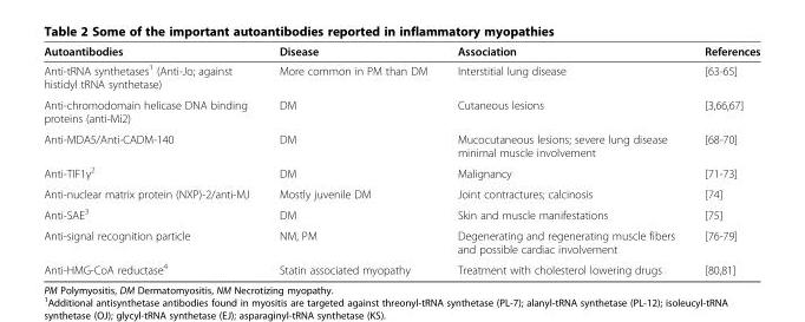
<table><thead><tr><td>Autoantibodies</td><td>Disease</td><td>Association</td><td>References</td></tr></thead><tbody><tr><td>Anti-tRNA synthetases<sup>1</sup> (Anti-Jo; against histidyl tRNA synthetase)</td><td>More common in PM than DM</td><td>Interstitial lung disease</td><td>[63-65]</td></tr><tr><td>Anti-chromodomain helicase DNA binding proteins (anti-Mi2)</td><td>DM</td><td>Cutaneous lesions</td><td>[3,66,67]</td></tr><tr><td>Anti-MDA5/Anti-CADM-140</td><td>DM</td><td>Mucocutaneous lesions; severe lung disease minimal muscle involvement</td><td>[68-70]</td></tr><tr><td>Anti-TIF1γ<sup>2</sup></td><td>DM</td><td>Malignancy</td><td>[71-73]</td></tr><tr><td>Anti-nuclear matrix protein (NXP)-2/anti-MJ</td><td>Mostly juvenile DM</td><td>Joint contractures; calcinosis</td><td>[74]</td></tr><tr><td>Anti-SAE<sup>3</sup></td><td>DM</td><td>Skin and muscle manifestations</td><td>[75]</td></tr><tr><td>Anti-signal recognition particle</td><td>NM, PM</td><td>Degenerating and regenerating muscle fibers and possible cardiac involvement</td><td>[76-79]</td></tr><tr><td>Anti-HMG-CoA reductase<sup>4</sup></td><td>Statin associated myopathy</td><td>Treatment with cholesterol lowering drugs</td><td>[80,81]</td></tr></tbody></table>